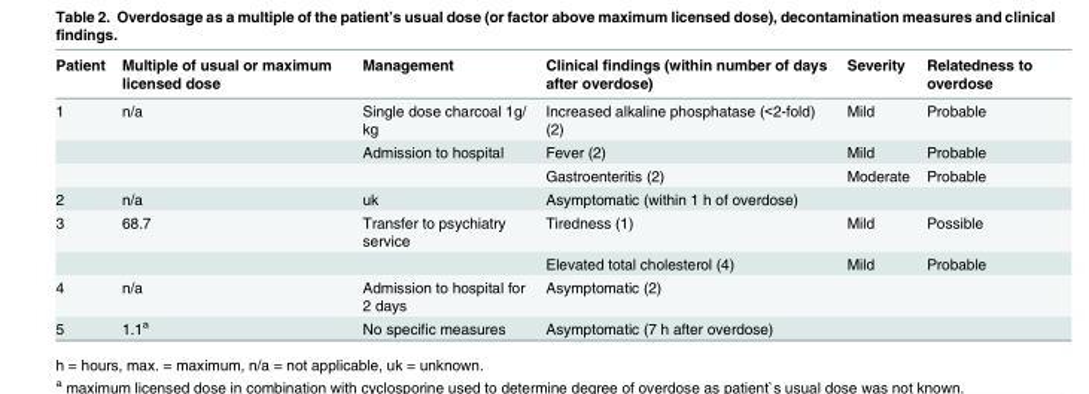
<table><thead><tr><td>Patient</td><td>Multiple of usual or maximum licensed dose</td><td>Management</td><td>Clinical findings (within number of days after overdose)</td><td>Severity</td><td>Relatedness to overdose</td></tr></thead><tbody><tr><td rowspan="3">1</td><td>n/a</td><td>Single dose charcoal 1g/ kg</td><td>Increased alkaline phosphatase (&lt;2-fold) (2)</td><td>Mild</td><td>Probable</td></tr><tr><td></td><td>Admission to hospital</td><td>Fever (2)</td><td>Mild</td><td>Probable</td></tr><tr><td></td><td></td><td>Gastroenteritis (2)</td><td>Moderate</td><td>Probable</td></tr><tr><td>2</td><td>n/a</td><td>uk</td><td>Asymptomatic (within 1 h of overdose)</td><td></td><td></td></tr><tr><td rowspan="2">3</td><td>68.7</td><td>Transfer to psychiatry service</td><td>Tiredness (1)</td><td>Mild</td><td>Possible</td></tr><tr><td></td><td></td><td>Elevated total cholesterol (4)</td><td>Mild</td><td>Probable</td></tr><tr><td>4</td><td>n/a</td><td>Admission to hospital for 2 days</td><td>Asymptomatic (2)</td><td></td><td></td></tr><tr><td>5</td><td>1.1<sup>a</sup></td><td>No specific measures</td><td>Asymptomatic (7 h after overdose)</td><td></td><td></td></tr></tbody></table>